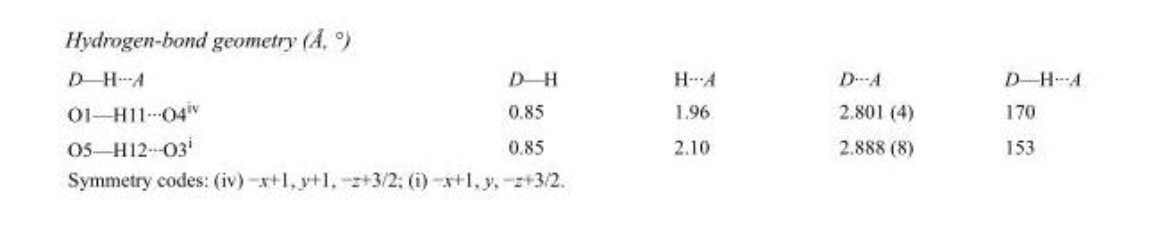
<table><tbody><tr><td>D—H···A</td><td>D—H</td><td>H···A</td><td>D···A</td><td>D—H···A</td></tr><tr><td>O1—H11···O4<sup>iv</sup></td><td>0.85</td><td>1.96</td><td>2.801 (4)</td><td>170</td></tr><tr><td>O5—H12···O3<sup>i</sup></td><td>0.85</td><td>2.10</td><td>2.888 (8)</td><td>153</td></tr></tbody></table>